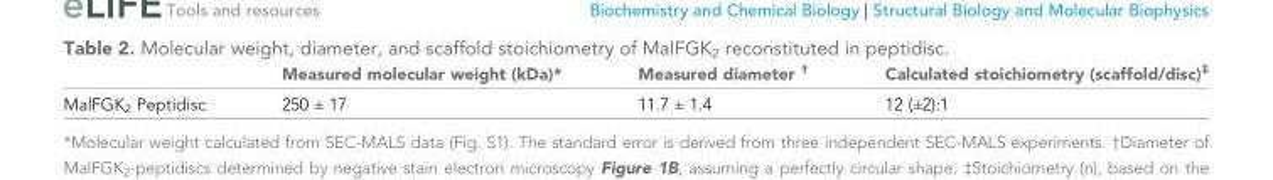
<table><thead><tr><td></td><td>Measured molecular weight (kDa)*</td><td>Measured diameter <sup>†</sup></td><td>Calculated stoichiometry (scaffold/disc)<sup>‡</sup></td></tr></thead><tbody><tr><td>MalFGK<sub>2</sub> Peptidisc</td><td>250 ± 17</td><td>11.7 ± 1.4</td><td>12 (±2):1</td></tr></tbody></table>